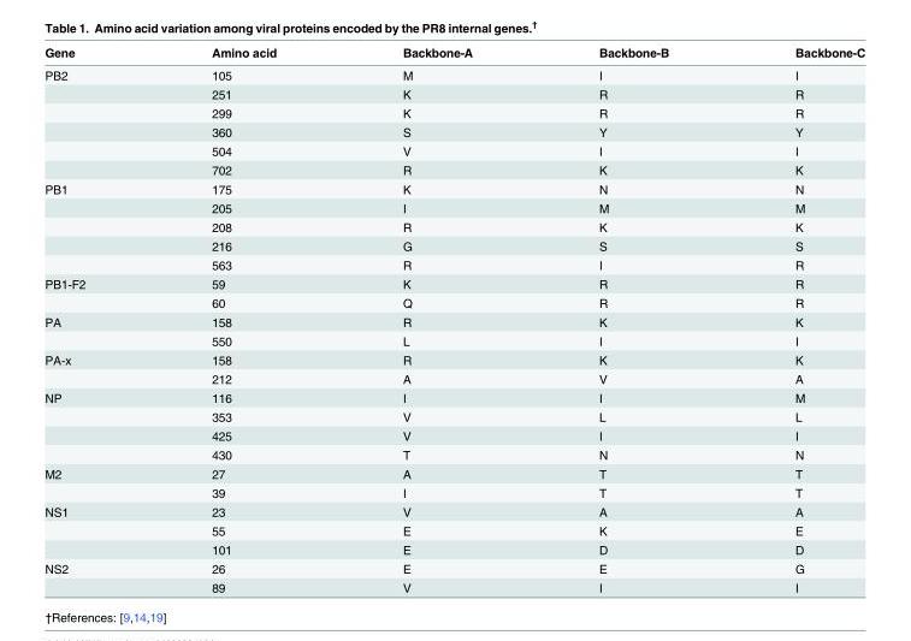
<table><thead><tr><td>Gene</td><td>Amino acid</td><td>Backbone-A</td><td>Backbone-B</td><td>Backbone-C</td></tr></thead><tbody><tr><td rowspan="6">PB2</td><td>105</td><td>M</td><td>I</td><td>I</td></tr><tr><td>251</td><td>K</td><td>R</td><td>R</td></tr><tr><td>299</td><td>K</td><td>R</td><td>R</td></tr><tr><td>360</td><td>S</td><td>Y</td><td>Y</td></tr><tr><td>504</td><td>V</td><td>I</td><td>I</td></tr><tr><td>702</td><td>R</td><td>K</td><td>K</td></tr><tr><td rowspan="5">PB1</td><td>175</td><td>K</td><td>N</td><td>N</td></tr><tr><td>205</td><td>I</td><td>M</td><td>M</td></tr><tr><td>208</td><td>R</td><td>K</td><td>K</td></tr><tr><td>216</td><td>G</td><td>S</td><td>S</td></tr><tr><td>563</td><td>R</td><td>I</td><td>R</td></tr><tr><td rowspan="2">PB1-F2</td><td>59</td><td>K</td><td>R</td><td>R</td></tr><tr><td>60</td><td>Q</td><td>R</td><td>R</td></tr><tr><td rowspan="2">PA</td><td>158</td><td>R</td><td>K</td><td>K</td></tr><tr><td>550</td><td>L</td><td>I</td><td>I</td></tr><tr><td rowspan="2">PA-x</td><td>158</td><td>R</td><td>K</td><td>K</td></tr><tr><td>212</td><td>A</td><td>V</td><td>A</td></tr><tr><td rowspan="4">NP</td><td>116</td><td>I</td><td>I</td><td>M</td></tr><tr><td>353</td><td>V</td><td>L</td><td>L</td></tr><tr><td>425</td><td>V</td><td>I</td><td>I</td></tr><tr><td>430</td><td>T</td><td>N</td><td>N</td></tr><tr><td rowspan="2">M2</td><td>27</td><td>A</td><td>T</td><td>T</td></tr><tr><td>39</td><td>I</td><td>T</td><td>T</td></tr><tr><td rowspan="3">NS1</td><td>23</td><td>V</td><td>A</td><td>A</td></tr><tr><td>55</td><td>E</td><td>K</td><td>E</td></tr><tr><td>101</td><td>E</td><td>D</td><td>D</td></tr><tr><td rowspan="2">NS2</td><td>26</td><td>E</td><td>E</td><td>G</td></tr><tr><td>89</td><td>V</td><td>I</td><td>I</td></tr></tbody></table>